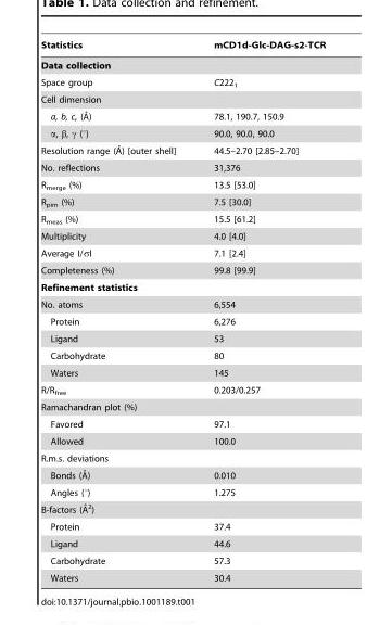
<table><thead><tr><td>Statistics</td><td>mCD1d-Glc-DAG-s2-TCR</td></tr></thead><tbody><tr><td colspan="2">Data collection</td></tr><tr><td>Space group</td><td>C222<sub>1</sub></td></tr><tr><td colspan="2">Cell dimension</td></tr><tr><td>a, b, c, (A˚)</td><td>78.1, 190.7, 150.9</td></tr><tr><td>α, β, γ (°)</td><td>90.0, 90.0, 90.0</td></tr><tr><td>Resolution range (A˚) [outer shell]</td><td>44.5–2.70 [2.85–2.70]</td></tr><tr><td>No. reflections</td><td>31,376</td></tr><tr><td>R<sub>merge</sub> (%)</td><td>13.5 [53.0]</td></tr><tr><td>R<sub>pim</sub> (%)</td><td>7.5 [30.0]</td></tr><tr><td>R<sub>meas</sub> (%)</td><td>15.5 [61.2]</td></tr><tr><td>Multiplicity</td><td>4.0 [4.0]</td></tr><tr><td>Average I/σI</td><td>7.1 [2.4]</td></tr><tr><td>Completeness (%)</td><td>99.8 [99.9]</td></tr><tr><td colspan="2">Refinement statistics</td></tr><tr><td>No. atoms</td><td>6,554</td></tr><tr><td>Protein</td><td>6,276</td></tr><tr><td>Ligand</td><td>53</td></tr><tr><td>Carbohydrate</td><td>80</td></tr><tr><td>Waters</td><td>145</td></tr><tr><td>R/R<sub>free</sub></td><td>0.203/0.257</td></tr><tr><td colspan="2">Ramachandran plot (%)</td></tr><tr><td>Favored</td><td>97.1</td></tr><tr><td>Allowed</td><td>100.0</td></tr><tr><td colspan="2">R.m.s. deviations</td></tr><tr><td>Bonds (A˚)</td><td>0.010</td></tr><tr><td>Angles (°)</td><td>1.275</td></tr><tr><td colspan="2">B-factors (A˚ 2)</td></tr><tr><td>Protein</td><td>37.4</td></tr><tr><td>Ligand</td><td>44.6</td></tr><tr><td>Carbohydrate</td><td>57.3</td></tr><tr><td>Waters</td><td>30.4</td></tr></tbody></table>